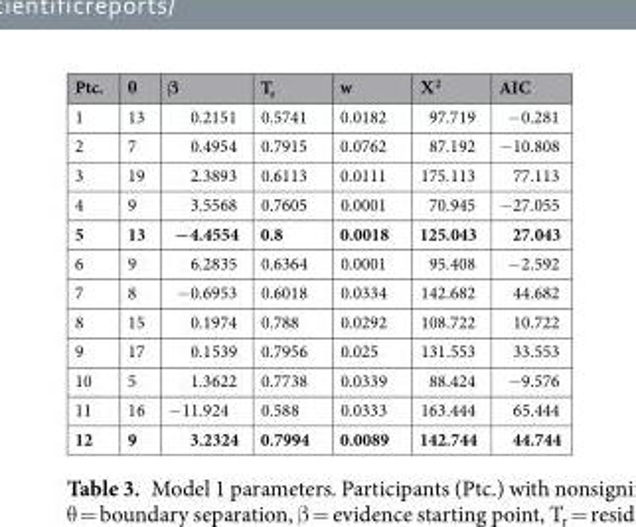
<table><thead><tr><td>Ptc.</td><td>θ</td><td>β</td><td>T<sub>r</sub></td><td>w</td><td>Χ<sup>2</sup></td><td>AIC</td></tr></thead><tbody><tr><td>1</td><td>13</td><td>0.2151</td><td>0.5741</td><td>0.0182</td><td>97.719</td><td>−0.281</td></tr><tr><td>2</td><td>7</td><td>0.4954</td><td>0.7915</td><td>0.0762</td><td>87.192</td><td>−10.808</td></tr><tr><td>3</td><td>19</td><td>2.3893</td><td>0.6113</td><td>0.0111</td><td>175.113</td><td>77.113</td></tr><tr><td>4</td><td>9</td><td>3.5568</td><td>0.7605</td><td>0.0001</td><td>70.945</td><td>−27.055</td></tr><tr><td>5</td><td>13</td><td>−4.4554</td><td>0.8</td><td>0.0018</td><td>125.043</td><td>27.043</td></tr><tr><td>6</td><td>9</td><td>6.2835</td><td>0.6364</td><td>0.0001</td><td>95.408</td><td>−2.592</td></tr><tr><td>7</td><td>8</td><td>−0.6953</td><td>0.6018</td><td>0.0334</td><td>142.682</td><td>44.682</td></tr><tr><td>8</td><td>15</td><td>0.1974</td><td>0.788</td><td>0.0292</td><td>108.722</td><td>10.722</td></tr><tr><td>9</td><td>17</td><td>0.1539</td><td>0.7956</td><td>0.025</td><td>131.553</td><td>33.553</td></tr><tr><td>10</td><td>5</td><td>1.3622</td><td>0.7738</td><td>0.0339</td><td>88.424</td><td>−9.576</td></tr><tr><td>11</td><td>16</td><td>−11.924</td><td>0.588</td><td>0.0333</td><td>163.444</td><td>65.444</td></tr><tr><td>12</td><td>9</td><td>3.2324</td><td>0.7994</td><td>0.0089</td><td>142.744</td><td>44.744</td></tr></tbody></table>